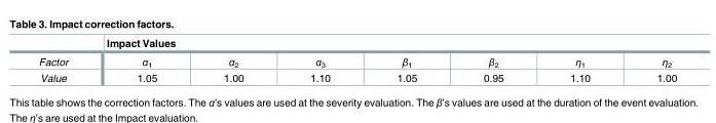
<table><thead><tr><td rowspan="2">Factor</td><td colspan="7">Impact Values</td></tr><tr><td>α<sub>1</sub></td><td>α<sub>2</sub></td><td>α<sub>3</sub></td><td>β<sub>1</sub></td><td>β<sub>2</sub></td><td>η<sub>1</sub></td><td>η<sub>2</sub></td></tr></thead><tbody><tr><td>Value</td><td>1.05</td><td>1.00</td><td>1.10</td><td>1.05</td><td>0.95</td><td>1.10</td><td>1.00</td></tr></tbody></table>